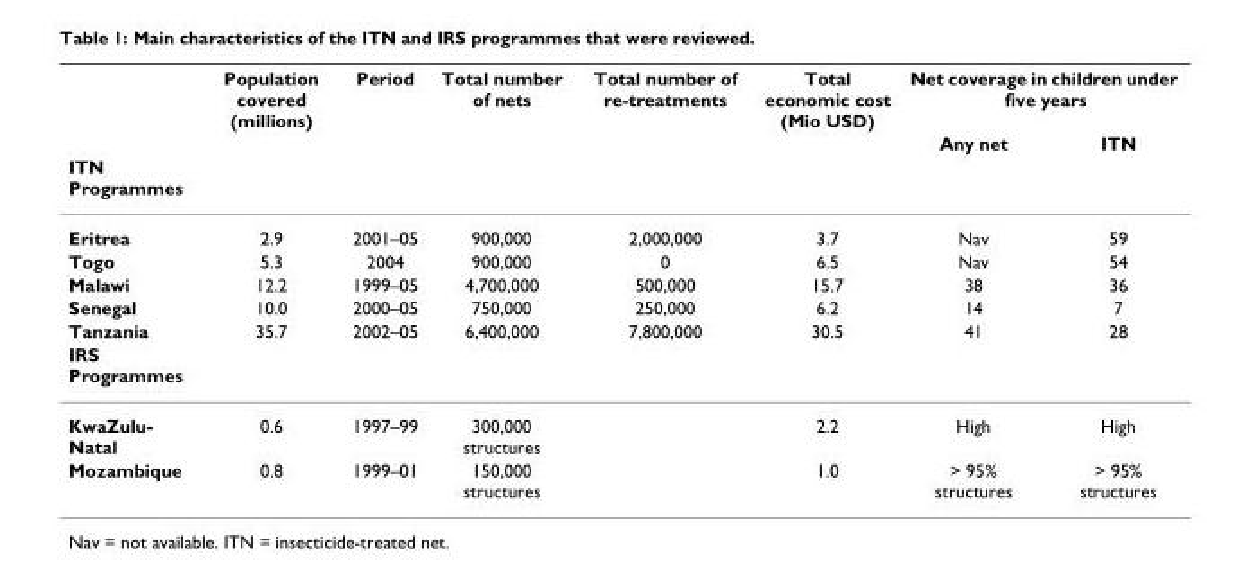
<table><thead><tr><td rowspan="3">ITN Programmes</td><td rowspan="3">Population covered (millions)</td><td rowspan="3">Period</td><td rowspan="3">Total number of nets</td><td rowspan="3">Total number of re-treatments</td><td rowspan="3">Total economic cost (Mio USD)</td><td colspan="2">Net coverage in children under five years</td></tr><tr><td rowspan="2">Any net</td><td rowspan="2">ITN</td></tr><tr></tr></thead><tbody><tr><td>Eritrea</td><td>2.9</td><td>2001–05</td><td>900,000</td><td>2,000,000</td><td>3.7</td><td>Nav</td><td>59</td></tr><tr><td>Togo</td><td>5.3</td><td>2004</td><td>900,000</td><td>0</td><td>6.5</td><td>Nav</td><td>54</td></tr><tr><td>Malawi</td><td>12.2</td><td>1999–05</td><td>4,700,000</td><td>500,000</td><td>15.7</td><td>38</td><td>36</td></tr><tr><td>Senegal</td><td>10.0</td><td>2000–05</td><td>750,000</td><td>250,000</td><td>6.2</td><td>14</td><td>7</td></tr><tr><td>Tanzania</td><td>35.7</td><td>2002–05</td><td>6,400,000</td><td>7,800,000</td><td>30.5</td><td>41</td><td>28</td></tr><tr><td colspan="8">IRS Programmes</td></tr><tr><td>KwaZulu- Natal</td><td>0.6</td><td>1997–99</td><td>300,000 structures</td><td></td><td>2.2</td><td>High</td><td>High</td></tr><tr><td>Mozambique</td><td>0.8</td><td>1999–01</td><td>150,000 structures</td><td></td><td>1.0</td><td>&gt; 95% structures</td><td>&gt; 95% structures</td></tr></tbody></table>